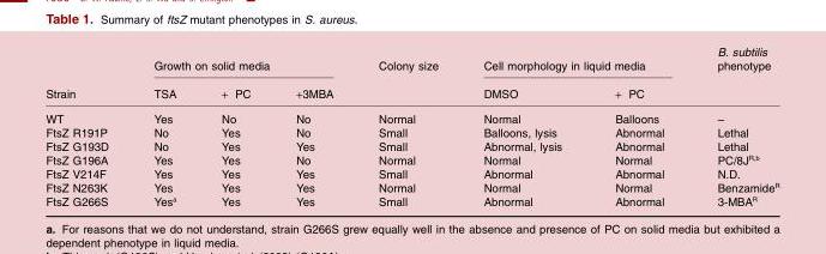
<table><thead><tr><td rowspan="2">Strain</td><td colspan="3">Growth on solid media</td><td rowspan="2">Colony size</td><td colspan="2">Cell morphology in liquid media</td><td rowspan="2">B. subtilis phenotype</td></tr><tr><td>TSA</td><td>+ PC</td><td>+3MBA</td><td>DMSO</td><td>+ PC</td></tr></thead><tbody><tr><td>WT</td><td>Yes</td><td>No</td><td>No</td><td>Normal</td><td>Normal</td><td>Balloons</td><td>–</td></tr><tr><td>FtsZ R191P</td><td>No</td><td>Yes</td><td>No</td><td>Small</td><td>Balloons, lysis</td><td>Abnormal</td><td>Lethal</td></tr><tr><td>FtsZ G193D</td><td>No</td><td>Yes</td><td>Yes</td><td>Small</td><td>Abnormal, lysis</td><td>Abnormal</td><td>Lethal</td></tr><tr><td>FtsZ G196A</td><td>Yes</td><td>Yes</td><td>No</td><td>Normal</td><td>Normal</td><td>Normal</td><td>PC/8J<sup>R,b</sup></td></tr><tr><td>FtsZ V214F</td><td>Yes</td><td>Yes</td><td>Yes</td><td>Small</td><td>Abnormal</td><td>Abnormal</td><td>N.D.</td></tr><tr><td>FtsZ N263K</td><td>Yes</td><td>Yes</td><td>Yes</td><td>Normal</td><td>Normal</td><td>Normal</td><td>Benzamide<sup>R</sup></td></tr><tr><td>FtsZ G266S</td><td>Yes<sup>a</sup></td><td>Yes</td><td>Yes</td><td>Small</td><td>Abnormal</td><td>Abnormal</td><td>3-MBA<sup>R</sup></td></tr></tbody></table>